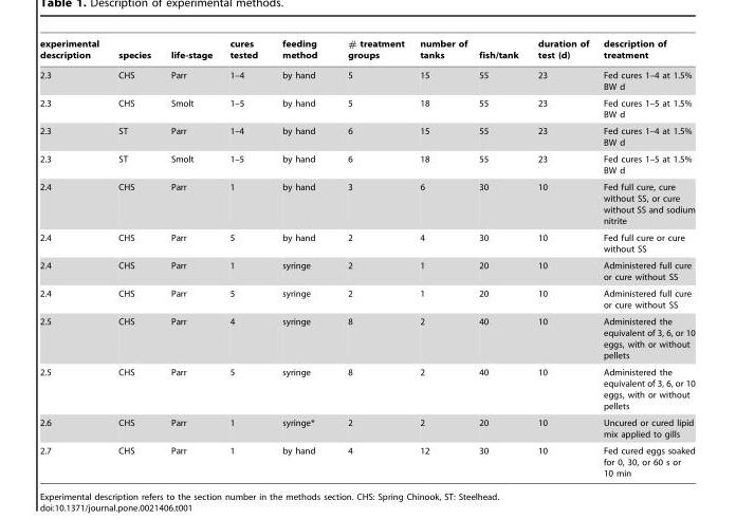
<table><thead><tr><td>experimental description</td><td>species</td><td>life-stage</td><td>cures tested</td><td>feeding method</td><td># treatment groups</td><td>number of tanks</td><td>fish/tank</td><td>duration of test (d)</td><td>description of treatment</td></tr></thead><tbody><tr><td>2.3</td><td>CHS</td><td>Parr</td><td>1–4</td><td>by hand</td><td>5</td><td>15</td><td>55</td><td>23</td><td>Fed cures 1–4 at 1.5% BW d</td></tr><tr><td>2.3</td><td>CHS</td><td>Smolt</td><td>1–5</td><td>by hand</td><td>5</td><td>18</td><td>55</td><td>23</td><td>Fed cures 1–5 at 1.5% BW d</td></tr><tr><td>2.3</td><td>ST</td><td>Parr</td><td>1–4</td><td>by hand</td><td>6</td><td>15</td><td>55</td><td>23</td><td>Fed cures 1–4 at 1.5% BW d</td></tr><tr><td>2.3</td><td>ST</td><td>Smolt</td><td>1–5</td><td>by hand</td><td>6</td><td>18</td><td>55</td><td>23</td><td>Fed cures 1–5 at 1.5% BW d</td></tr><tr><td>2.4</td><td>CHS</td><td>Parr</td><td>1</td><td>by hand</td><td>3</td><td>6</td><td>30</td><td>10</td><td>Fed full cure, cure without SS, or cure without SS and sodium nitrite</td></tr><tr><td>2.4</td><td>CHS</td><td>Parr</td><td>5</td><td>by hand</td><td>2</td><td>4</td><td>30</td><td>10</td><td>Fed full cure or cure without SS</td></tr><tr><td>2.4</td><td>CHS</td><td>Parr</td><td>1</td><td>syringe</td><td>2</td><td>1</td><td>20</td><td>10</td><td>Administered full cure or cure without SS</td></tr><tr><td>2.4</td><td>CHS</td><td>Parr</td><td>5</td><td>syringe</td><td>2</td><td>1</td><td>20</td><td>10</td><td>Administered full cure or cure without SS</td></tr><tr><td>2.5</td><td>CHS</td><td>Parr</td><td>4</td><td>syringe</td><td>8</td><td>2</td><td>40</td><td>10</td><td>Administered the equivalent of 3, 6, or 10 eggs, with or without pellets</td></tr><tr><td>2.5</td><td>CHS</td><td>Parr</td><td>5</td><td>syringe</td><td>8</td><td>2</td><td>40</td><td>10</td><td>Administered the equivalent of 3, 6, or 10 eggs, with or without pellets</td></tr><tr><td>2.6</td><td>CHS</td><td>Parr</td><td>1</td><td>syringe*</td><td>2</td><td>2</td><td>20</td><td>10</td><td>Uncured or cured lipid mix applied to gills</td></tr><tr><td>2.7</td><td>CHS</td><td>Parr</td><td>1</td><td>by hand</td><td>4</td><td>12</td><td>30</td><td>10</td><td>Fed cured eggs soaked for 0, 30, or 60 s or 10 min</td></tr></tbody></table>